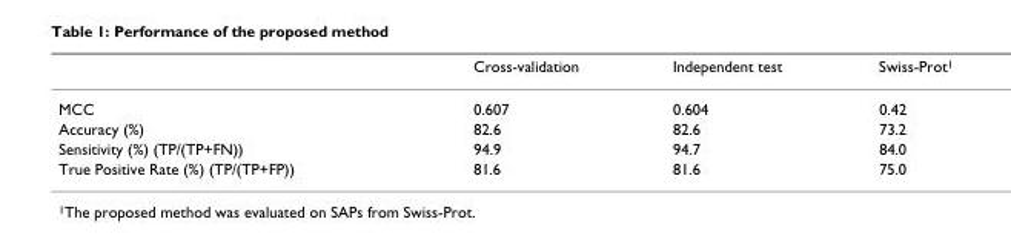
<table><thead><tr><td></td><td>Cross-validation</td><td>Independent test</td><td>Swiss-Prot<sup>1</sup></td></tr></thead><tbody><tr><td>MCC</td><td>0.607</td><td>0.604</td><td>0.42</td></tr><tr><td>Accuracy (%)</td><td>82.6</td><td>82.6</td><td>73.2</td></tr><tr><td>Sensitivity (%) (TP/(TP+FN))</td><td>94.9</td><td>94.7</td><td>84.0</td></tr><tr><td>True Positive Rate (%) (TP/(TP+FP))</td><td>81.6</td><td>81.6</td><td>75.0</td></tr></tbody></table>